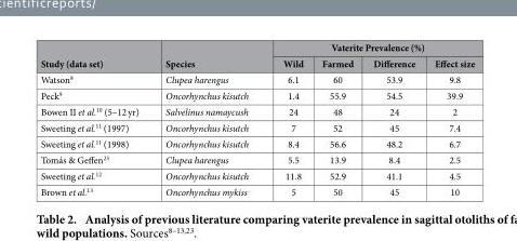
<table><thead><tr><td rowspan="2">Study (data set)</td><td rowspan="2">Species</td><td colspan="4">Vaterite Prevalence (%)</td></tr><tr><td>Wild</td><td>Farmed</td><td>Difference</td><td>Effect size</td></tr></thead><tbody><tr><td>Watson<sup>8</sup></td><td>Clupea harengus</td><td>6.1</td><td>60</td><td>53.9</td><td>9.8</td></tr><tr><td>Peck<sup>9</sup></td><td>Oncorhynchus kisutch</td><td>1.4</td><td>55.9</td><td>54.5</td><td>39.9</td></tr><tr><td>Bowen II et al.<sup>10</sup> (5–12 yr)</td><td>Salvelinus namaycush</td><td>24</td><td>48</td><td>24</td><td>2</td></tr><tr><td>Sweeting et al.<sup>11</sup> (1997)</td><td>Oncorhynchus kisutch</td><td>7</td><td>52</td><td>45</td><td>7.4</td></tr><tr><td>Sweeting et al.<sup>11</sup> (1998)</td><td>Oncorhynchus kisutch</td><td>8.4</td><td>56.6</td><td>48.2</td><td>6.7</td></tr><tr><td>Tomás &amp; Geffen<sup>23</sup></td><td>Clupea harengus</td><td>5.5</td><td>13.9</td><td>8.4</td><td>2.5</td></tr><tr><td>Sweeting et al.<sup>12</sup></td><td>Oncorhynchus kisutch</td><td>11.8</td><td>52.9</td><td>41.1</td><td>4.5</td></tr><tr><td>Brown et al.<sup>13</sup></td><td>Oncorhynchus mykiss</td><td>5</td><td>50</td><td>45</td><td>10</td></tr></tbody></table>